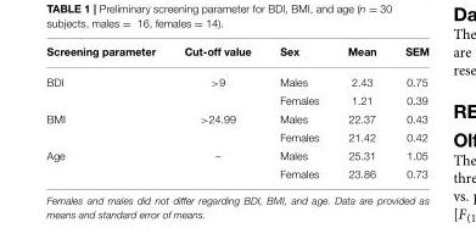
<table><thead><tr><td>Screening parameter</td><td>Cut-off value</td><td>Sex</td><td>Mean</td><td>SEM</td></tr></thead><tbody><tr><td rowspan="2">BDI</td><td>&gt;9</td><td>Males</td><td>2.43</td><td>0.75</td></tr><tr><td></td><td>Females</td><td>1.21</td><td>0.39</td></tr><tr><td rowspan="2">BMI</td><td>&gt;24.99</td><td>Males</td><td>22.37</td><td>0.43</td></tr><tr><td></td><td>Females</td><td>21.42</td><td>0.42</td></tr><tr><td rowspan="2">Age</td><td>–</td><td>Males</td><td>25.31</td><td>1.05</td></tr><tr><td></td><td>Females</td><td>23.86</td><td>0.73</td></tr></tbody></table>